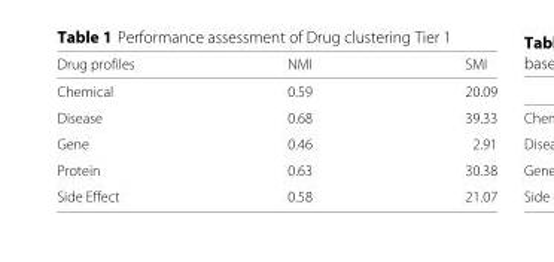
<table><thead><tr><td>Drug profiles</td><td>NMI</td><td>SMI</td></tr></thead><tbody><tr><td>Chemical</td><td>0.59</td><td>20.09</td></tr><tr><td>Disease</td><td>0.68</td><td>39.33</td></tr><tr><td>Gene</td><td>0.46</td><td>2.91</td></tr><tr><td>Protein</td><td>0.63</td><td>30.38</td></tr><tr><td>Side Effect</td><td>0.58</td><td>21.07</td></tr></tbody></table>